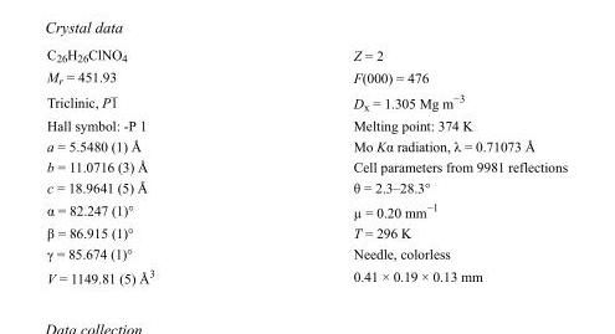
<table><tbody><tr><td>C<sub>26</sub>H<sub>26</sub>ClNO<sub>4</sub></td><td>Z = 2</td></tr><tr><td>M<sub>r</sub> = 451.93</td><td>F(000) = 476</td></tr><tr><td>Triclinic, P1</td><td>D<sub>x</sub> = 1.305 Mg m<sup>−3</sup></td></tr><tr><td>Hall symbol: -P 1</td><td>Melting point: 374 K</td></tr><tr><td>a = 5.5480 (1) Å</td><td>Mo Kα radiation, λ = 0.71073 Å</td></tr><tr><td>b = 11.0716 (3) Å</td><td>Cell parameters from 9981 reflections</td></tr><tr><td>c = 18.9641 (5) Å</td><td>θ = 2.3–28.3°</td></tr><tr><td>α = 82.247 (1)°</td><td>µ = 0.20 mm<sup>−1</sup></td></tr><tr><td>β = 86.915 (1)°</td><td>T = 296 K</td></tr><tr><td>γ = 85.674 (1)°</td><td>Needle, colorless</td></tr><tr><td>V = 1149.81 (5) Å<sup>3</sup></td><td>0.41 × 0.19 × 0.13 mm</td></tr></tbody></table>